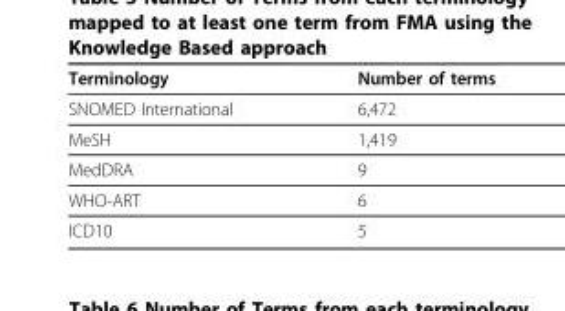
<table><thead><tr><td>Terminology</td><td>Number of terms</td></tr></thead><tbody><tr><td>SNOMED International</td><td>6,472</td></tr><tr><td>MeSH</td><td>1,419</td></tr><tr><td>MedDRA</td><td>9</td></tr><tr><td>WHO-ART</td><td>6</td></tr><tr><td>ICD10</td><td>5</td></tr></tbody></table>